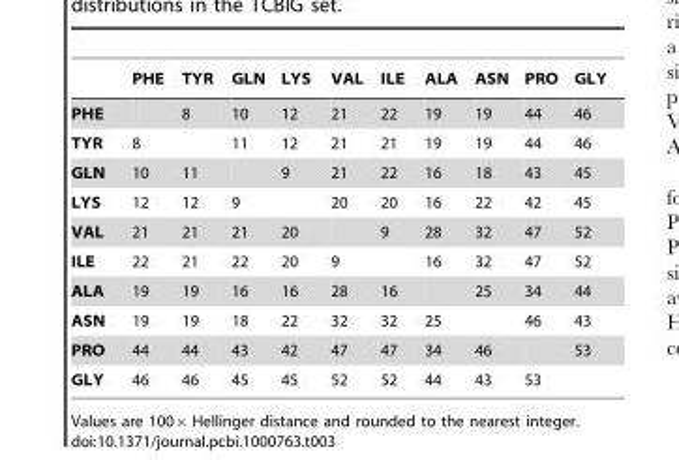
<table><thead><tr><td></td><td>PHE</td><td>TYR</td><td>GLN</td><td>LYS</td><td>VAL</td><td>ILE</td><td>ALA</td><td>ASN</td><td>PRO</td><td>GLY</td></tr></thead><tbody><tr><td>PHE</td><td></td><td>8</td><td>10</td><td>12</td><td>21</td><td>22</td><td>19</td><td>19</td><td>44</td><td>46</td></tr><tr><td>TYR</td><td>8</td><td></td><td>11</td><td>12</td><td>21</td><td>21</td><td>19</td><td>19</td><td>44</td><td>46</td></tr><tr><td>GLN</td><td>10</td><td>11</td><td></td><td>9</td><td>21</td><td>22</td><td>16</td><td>18</td><td>43</td><td>45</td></tr><tr><td>LYS</td><td>12</td><td>12</td><td>9</td><td></td><td>20</td><td>20</td><td>16</td><td>22</td><td>42</td><td>45</td></tr><tr><td>VAL</td><td>21</td><td>21</td><td>21</td><td>20</td><td></td><td>9</td><td>28</td><td>32</td><td>47</td><td>52</td></tr><tr><td>ILE</td><td>22</td><td>21</td><td>22</td><td>20</td><td>9</td><td></td><td>16</td><td>32</td><td>47</td><td>52</td></tr><tr><td>ALA</td><td>19</td><td>19</td><td>16</td><td>16</td><td>28</td><td>16</td><td></td><td>25</td><td>34</td><td>44</td></tr><tr><td>ASN</td><td>19</td><td>19</td><td>18</td><td>22</td><td>32</td><td>32</td><td>25</td><td></td><td>46</td><td>43</td></tr><tr><td>PRO</td><td>44</td><td>44</td><td>43</td><td>42</td><td>47</td><td>47</td><td>34</td><td>46</td><td></td><td>53</td></tr><tr><td>GLY</td><td>46</td><td>46</td><td>45</td><td>45</td><td>52</td><td>52</td><td>44</td><td>43</td><td>53</td><td></td></tr></tbody></table>